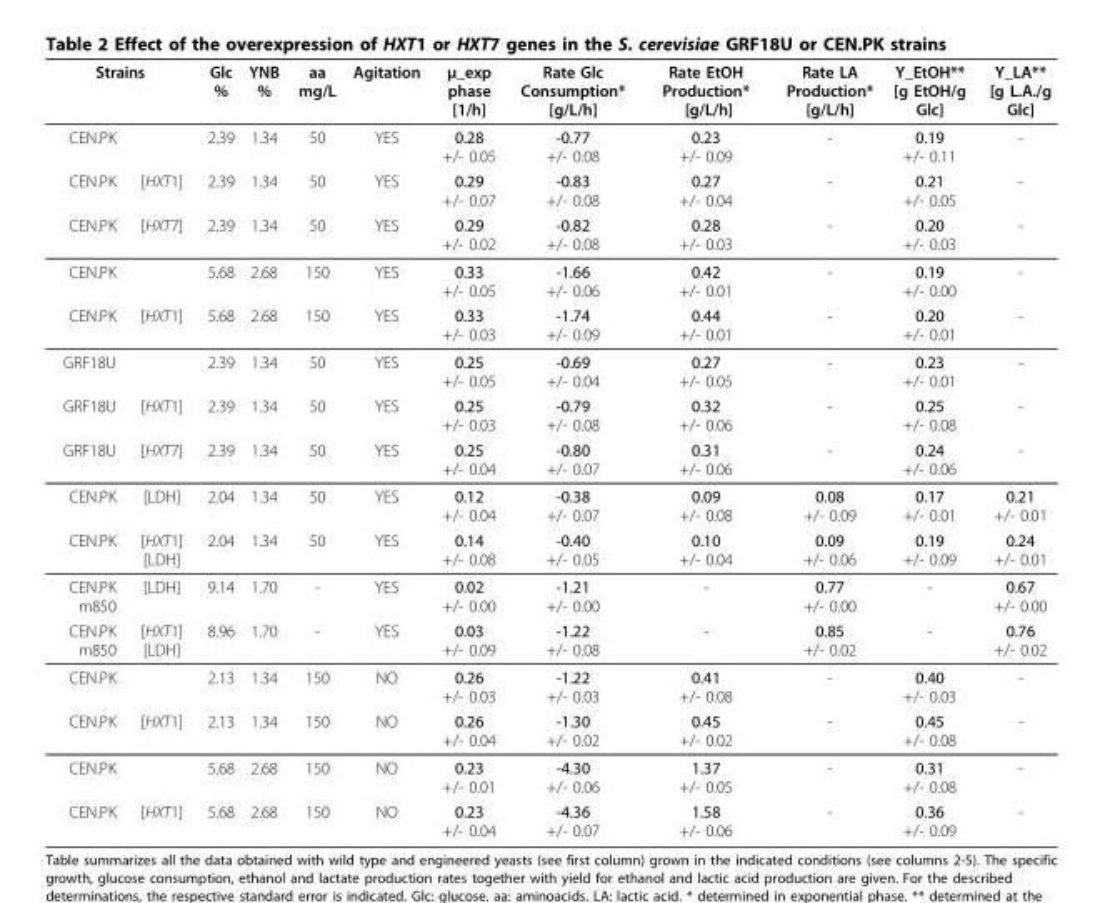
<table><thead><tr><td colspan="2">Strains</td><td rowspan="2">Glc % 2.39</td><td rowspan="2">YNB % 1.34</td><td rowspan="2">aa mg/L 50</td><td rowspan="2">Agitation YES</td><td rowspan="2">μ_exp phase [1/h] 0.28 +/- 0.05</td><td rowspan="2">Rate Glc Consumption* [g/L/h] -0.77 +/- 0.08</td><td rowspan="2">Rate EtOH Production* [g/L/h] 0.23 +/- 0.09</td><td rowspan="2">Rate LA Production* [g/L/h] -</td><td rowspan="2">Y_EtOH** [g EtOH/g Glc] 0.19 +/- 0.11</td><td rowspan="2">Y_LA** [g L.A./g Glc] -</td></tr><tr><td>CEN.PK</td><td></td></tr></thead><tbody><tr><td>CEN.PK</td><td>[HXT1]</td><td>2.39</td><td>1.34</td><td>50</td><td>YES</td><td>0.29 +/- 0.07</td><td>-0.83 +/- 0.08</td><td>0.27 +/- 0.04</td><td>-</td><td>0.21 +/- 0.05</td><td>-</td></tr><tr><td>CEN.PK</td><td>[HXT7]</td><td>2.39</td><td>1.34</td><td>50</td><td>YES</td><td>0.29 +/- 0.02</td><td>-0.82 +/- 0.08</td><td>0.28 +/- 0.03</td><td>-</td><td>0.20 +/- 0.03</td><td>-</td></tr><tr><td>CEN.PK</td><td></td><td>5.68</td><td>2.68</td><td>150</td><td>YES</td><td>0.33 +/- 0.05</td><td>-1.66 +/- 0.06</td><td>0.42 +/- 0.01</td><td>-</td><td>0.19 +/- 0.00</td><td>-</td></tr><tr><td>CEN.PK</td><td>[HXT1]</td><td>5.68</td><td>2.68</td><td>150</td><td>YES</td><td>0.33 +/- 0.03</td><td>-1.74 +/- 0.09</td><td>0.44 +/- 0.01</td><td>-</td><td>0.20 +/- 0.01</td><td>-</td></tr><tr><td>GRF18U</td><td></td><td>2.39</td><td>1.34</td><td>50</td><td>YES</td><td>0.25 +/- 0.05</td><td>-0.69 +/- 0.04</td><td>0.27 +/- 0.05</td><td>-</td><td>0.23 +/- 0.01</td><td>-</td></tr><tr><td>GRF18U</td><td>[HXT1]</td><td>2.39</td><td>1.34</td><td>50</td><td>YES</td><td>0.25 +/- 0.03</td><td>-0.79 +/- 0.08</td><td>0.32 +/- 0.06</td><td>-</td><td>0.25 +/- 0.08</td><td>-</td></tr><tr><td>GRF18U</td><td>[HXT7]</td><td>2.39</td><td>1.34</td><td>50</td><td>YES</td><td>0.25 +/- 0.04</td><td>-0.80 +/- 0.07</td><td>0.31 +/- 0.06</td><td>-</td><td>0.24 +/- 0.06</td><td>-</td></tr><tr><td>CEN.PK</td><td>[LDH]</td><td>2.04</td><td>1.34</td><td>50</td><td>YES</td><td>0.12 +/- 0.04</td><td>-0.38 +/- 0.07</td><td>0.09 +/- 0.08</td><td>0.08 +/- 0.09</td><td>0.17 +/- 0.01</td><td>0.21 +/- 0.01</td></tr><tr><td>CEN.PK</td><td>[HXT1] [LDH]</td><td>2.04</td><td>1.34</td><td>50</td><td>YES</td><td>0.14 +/- 0.08</td><td>-0.40 +/- 0.05</td><td>0.10 +/- 0.04</td><td>0.09 +/- 0.06</td><td>0.19 +/- 0.09</td><td>0.24 +/- 0.01</td></tr><tr><td>CEN.PK m850</td><td>[LDH]</td><td>9.14</td><td>1.70</td><td>-</td><td>YES</td><td>0.02 +/- 0.00</td><td>-1.21 +/- 0.00</td><td>-</td><td>0.77 +/- 0.00</td><td>-</td><td>0.67 +/- 0.00</td></tr><tr><td>CEN.PK m850</td><td>[HXT1] [LDH]</td><td>8.96</td><td>1.70</td><td>-</td><td>YES</td><td>0.03 +/- 0.09</td><td>-1.22 +/- 0.08</td><td>-</td><td>0.85 +/- 0.02</td><td>-</td><td>0.76 +/- 0.02</td></tr><tr><td>CEN.PK</td><td></td><td>2.13</td><td>1.34</td><td>150</td><td>NO</td><td>0.26 +/- 0.03</td><td>-1.22 +/- 0.03</td><td>0.41 +/- 0.08</td><td>-</td><td>0.40 +/- 0.03</td><td>-</td></tr><tr><td>CEN.PK</td><td>[HXT1]</td><td>2.13</td><td>1.34</td><td>150</td><td>NO</td><td>0.26 +/- 0.04</td><td>-1.30 +/- 0.02</td><td>0.45 +/- 0.02</td><td>-</td><td>0.45 +/- 0.08</td><td>-</td></tr><tr><td>CEN.PK</td><td></td><td>5.68</td><td>2.68</td><td>150</td><td>NO</td><td>0.23 +/- 0.01</td><td>-4.30 +/- 0.06</td><td>1.37 +/- 0.05</td><td>-</td><td>0.31 +/- 0.08</td><td>-</td></tr><tr><td>CEN.PK</td><td>[HXT1]</td><td>5.68</td><td>2.68</td><td>150</td><td>NO</td><td>0.23 +/- 0.04</td><td>-4.36 +/- 0.07</td><td>1.58 +/- 0.06</td><td>-</td><td>0.36 +/- 0.09</td><td>-</td></tr></tbody></table>